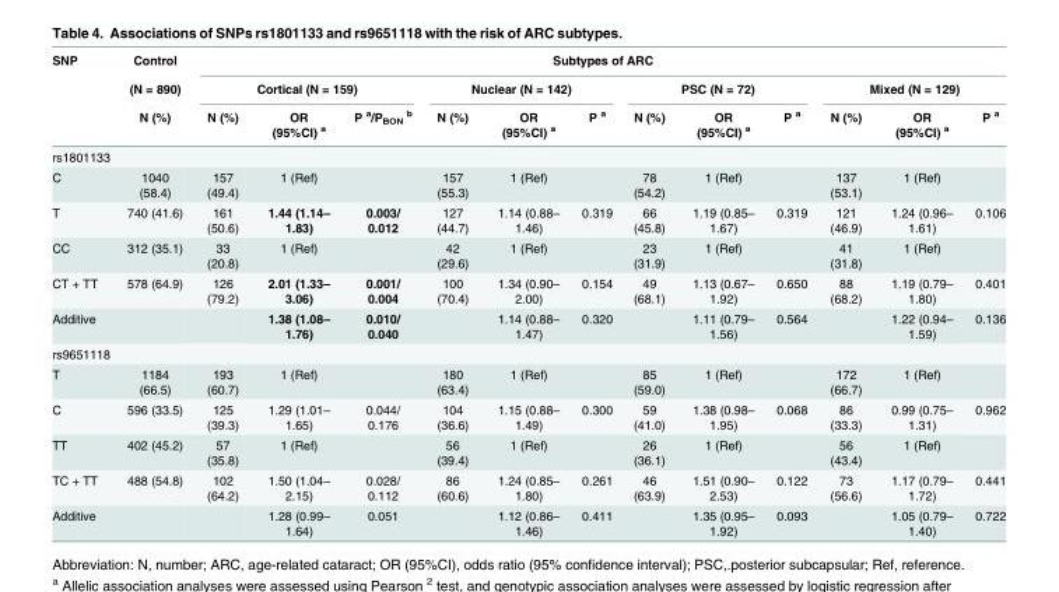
<table><thead><tr><td rowspan="3">SNP</td><td rowspan="3">Control (N = 890) N (%)</td><td colspan="12">Subtypes of ARC</td></tr><tr><td colspan="3">Cortical (N = 159)</td><td colspan="3">Nuclear (N = 142)</td><td colspan="3">PSC (N = 72)</td><td colspan="3">Mixed (N = 129)</td></tr><tr><td>N (%)</td><td>OR (95%CI) <sup>a</sup></td><td>P <sup>a</sup>/P<sub>BON</sub> <sup>b</sup></td><td>N (%)</td><td>OR (95%CI) <sup>a</sup></td><td>P <sup>a</sup></td><td>N (%)</td><td>OR (95%CI) <sup>a</sup></td><td>P <sup>a</sup></td><td>N (%)</td><td>OR (95%CI) <sup>a</sup></td><td>P <sup>a</sup></td></tr></thead><tbody><tr><td colspan="14">rs1801133</td></tr><tr><td>C</td><td>1040 (58.4)</td><td>157 (49.4)</td><td>1 (Ref)</td><td></td><td>157 (55.3)</td><td>1 (Ref)</td><td></td><td>78 (54.2)</td><td>1 (Ref)</td><td></td><td>137 (53.1)</td><td>1 (Ref)</td><td></td></tr><tr><td>T</td><td>740 (41.6)</td><td>161 (50.6)</td><td>1.44 (1.14– 1.83)</td><td>0.003/ 0.012</td><td>127 (44.7)</td><td>1.14 (0.88– 1.46)</td><td>0.319</td><td>66 (45.8)</td><td>1.19 (0.85– 1.67)</td><td>0.319</td><td>121 (46.9)</td><td>1.24 (0.96– 1.61)</td><td>0.106</td></tr><tr><td>CC</td><td>312 (35.1)</td><td>33 (20.8)</td><td>1 (Ref)</td><td></td><td>42 (29.6)</td><td>1 (Ref)</td><td></td><td>23 (31.9)</td><td>1 (Ref)</td><td></td><td>41 (31.8)</td><td>1 (Ref)</td><td></td></tr><tr><td>CT + TT</td><td>578 (64.9)</td><td>126 (79.2)</td><td>2.01 (1.33– 3.06)</td><td>0.001/ 0.004</td><td>100 (70.4)</td><td>1.34 (0.90– 2.00)</td><td>0.154</td><td>49 (68.1)</td><td>1.13 (0.67– 1.92)</td><td>0.650</td><td>88 (68.2)</td><td>1.19 (0.79– 1.80)</td><td>0.401</td></tr><tr><td>Additive</td><td></td><td></td><td>1.38 (1.08– 1.76)</td><td>0.010/ 0.040</td><td></td><td>1.14 (0.88– 1.47)</td><td>0.320</td><td></td><td>1.11 (0.79– 1.56)</td><td>0.564</td><td></td><td>1.22 (0.94– 1.59)</td><td>0.136</td></tr><tr><td colspan="14">rs9651118</td></tr><tr><td>T</td><td>1184 (66.5)</td><td>193 (60.7)</td><td>1 (Ref)</td><td></td><td>180 (63.4)</td><td>1 (Ref)</td><td></td><td>85 (59.0)</td><td>1 (Ref)</td><td></td><td>172 (66.7)</td><td>1 (Ref)</td><td></td></tr><tr><td>C</td><td>596 (33.5)</td><td>125 (39.3)</td><td>1.29 (1.01– 1.65)</td><td>0.044/ 0.176</td><td>104 (36.6)</td><td>1.15 (0.88– 1.49)</td><td>0.300</td><td>59 (41.0)</td><td>1.38 (0.98– 1.95)</td><td>0.068</td><td>86 (33.3)</td><td>0.99 (0.75– 1.31)</td><td>0.962</td></tr><tr><td>TT</td><td>402 (45.2)</td><td>57 (35.8)</td><td>1 (Ref)</td><td></td><td>56 (39.4)</td><td>1 (Ref)</td><td></td><td>26 (36.1)</td><td>1 (Ref)</td><td></td><td>56 (43.4)</td><td>1 (Ref)</td><td></td></tr><tr><td>TC + TT</td><td>488 (54.8)</td><td>102 (64.2)</td><td>1.50 (1.04– 2.15)</td><td>0.028/ 0.112</td><td>86 (60.6)</td><td>1.24 (0.85– 1.80)</td><td>0.261</td><td>46 (63.9)</td><td>1.51 (0.90– 2.53)</td><td>0.122</td><td>73 (56.6)</td><td>1.17 (0.79– 1.72)</td><td>0.441</td></tr><tr><td>Additive</td><td></td><td></td><td>1.28 (0.99– 1.64)</td><td>0.051</td><td></td><td>1.12 (0.86– 1.46)</td><td>0.411</td><td></td><td>1.35 (0.95– 1.92)</td><td>0.093</td><td></td><td>1.05 (0.79– 1.40)</td><td>0.722</td></tr></tbody></table>